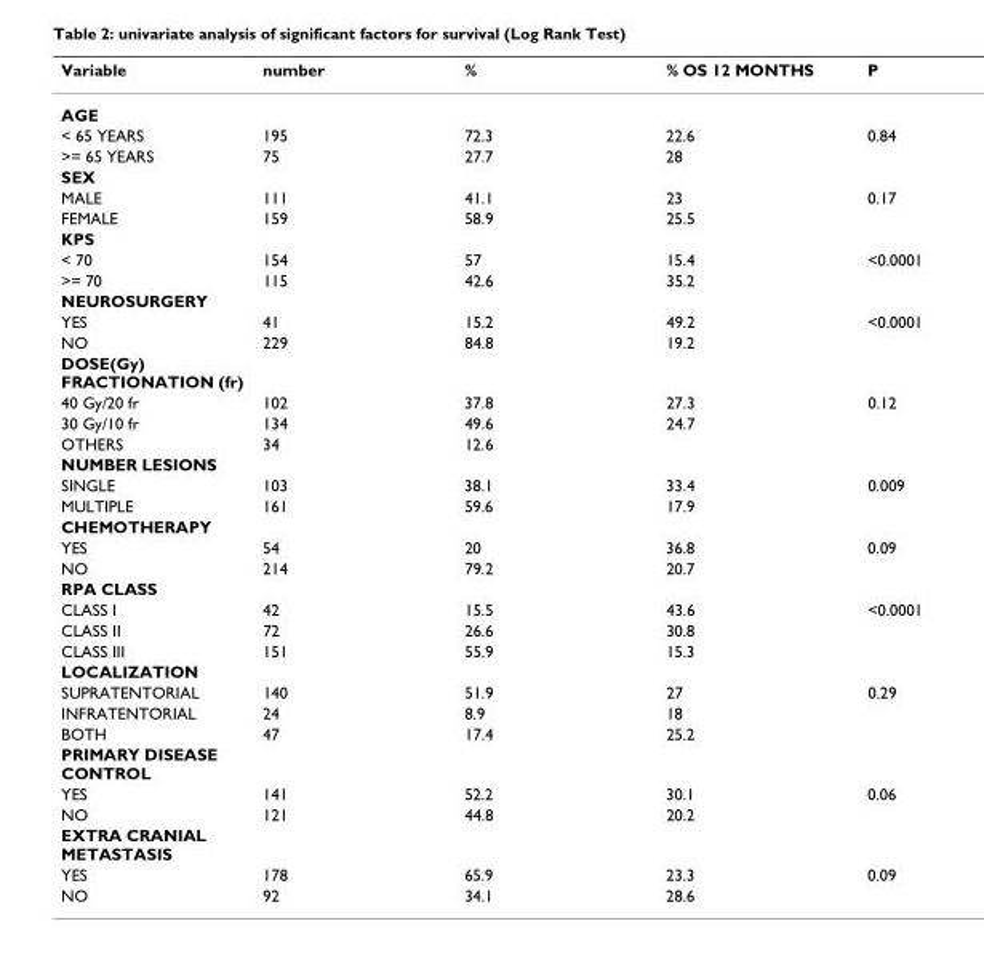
<table><thead><tr><td>Variable</td><td>number</td><td>%</td><td>% OS 12 MONTHS</td><td>P</td></tr></thead><tbody><tr><td colspan="5">AGE</td></tr><tr><td>&lt; 65 YEARS</td><td>195</td><td>72.3</td><td>22.6</td><td>0.84</td></tr><tr><td>&gt;= 65 YEARS</td><td>75</td><td>27.7</td><td>28</td><td></td></tr><tr><td colspan="5">SEX</td></tr><tr><td>MALE</td><td>111</td><td>41.1</td><td>23</td><td>0.17</td></tr><tr><td>FEMALE</td><td>159</td><td>58.9</td><td>25.5</td><td></td></tr><tr><td colspan="5">KPS</td></tr><tr><td>&lt; 70</td><td>154</td><td>57</td><td>15.4</td><td>&lt;0.0001</td></tr><tr><td>&gt;= 70</td><td>115</td><td>42.6</td><td>35.2</td><td></td></tr><tr><td colspan="5">NEUROSURGERY</td></tr><tr><td>YES</td><td>41</td><td>15.2</td><td>49.2</td><td>&lt;0.0001</td></tr><tr><td>NO</td><td>229</td><td>84.8</td><td>19.2</td><td></td></tr><tr><td colspan="5">DOSE(Gy) FRACTIONATION (fr)</td></tr><tr><td>40 Gy/20 fr</td><td>102</td><td>37.8</td><td>27.3</td><td>0.12</td></tr><tr><td>30 Gy/10 fr</td><td>134</td><td>49.6</td><td>24.7</td><td></td></tr><tr><td>OTHERS</td><td>34</td><td>12.6</td><td></td><td></td></tr><tr><td colspan="5">NUMBER LESIONS</td></tr><tr><td>SINGLE</td><td>103</td><td>38.1</td><td>33.4</td><td>0.009</td></tr><tr><td>MULTIPLE</td><td>161</td><td>59.6</td><td>17.9</td><td></td></tr><tr><td colspan="5">CHEMOTHERAPY</td></tr><tr><td>YES</td><td>54</td><td>20</td><td>36.8</td><td>0.09</td></tr><tr><td>NO</td><td>214</td><td>79.2</td><td>20.7</td><td></td></tr><tr><td colspan="5">RPA CLASS</td></tr><tr><td>CLASS I</td><td>42</td><td>15.5</td><td>43.6</td><td>&lt;0.0001</td></tr><tr><td>CLASS II</td><td>72</td><td>26.6</td><td>30.8</td><td></td></tr><tr><td>CLASS III</td><td>151</td><td>55.9</td><td>15.3</td><td></td></tr><tr><td colspan="5">LOCALIZATION</td></tr><tr><td>SUPRATENTORIAL</td><td>140</td><td>51.9</td><td>27</td><td>0.29</td></tr><tr><td>INFRATENTORIAL</td><td>24</td><td>8.9</td><td>18</td><td></td></tr><tr><td>BOTH</td><td>47</td><td>17.4</td><td>25.2</td><td></td></tr><tr><td colspan="5">PRIMARY DISEASE CONTROL</td></tr><tr><td>YES</td><td>141</td><td>52.2</td><td>30.1</td><td>0.06</td></tr><tr><td>NO</td><td>121</td><td>44.8</td><td>20.2</td><td></td></tr><tr><td colspan="5">EXTRA CRANIAL METASTASIS</td></tr><tr><td>YES</td><td>178</td><td>65.9</td><td>23.3</td><td>0.09</td></tr><tr><td>NO</td><td>92</td><td>34.1</td><td>28.6</td><td></td></tr></tbody></table>